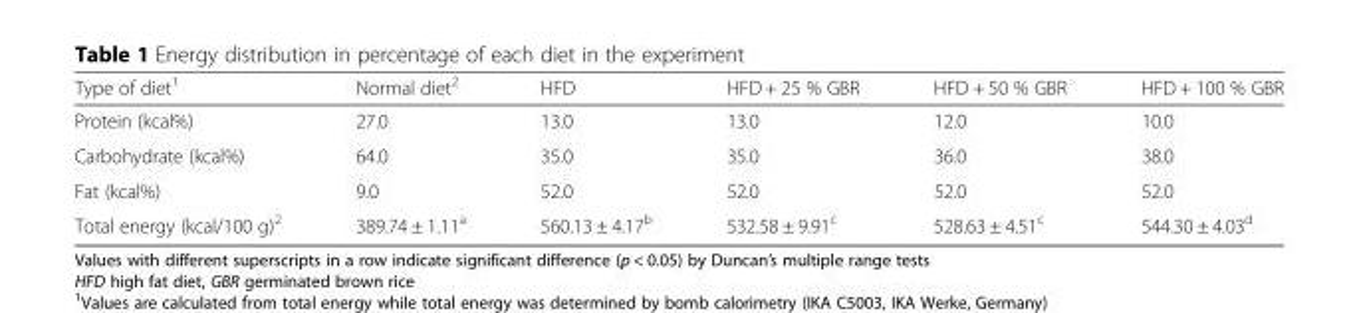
<table><thead><tr><td>Type of diet<sup>1</sup></td><td>Normal diet<sup>2</sup></td><td>HFD</td><td>HFD + 25 % GBR</td><td>HFD + 50 % GBR</td><td>HFD + 100 % GBR</td></tr></thead><tbody><tr><td>Protein (kcal%)</td><td>27.0</td><td>13.0</td><td>13.0</td><td>12.0</td><td>10.0</td></tr><tr><td>Carbohydrate (kcal%)</td><td>64.0</td><td>35.0</td><td>35.0</td><td>36.0</td><td>38.0</td></tr><tr><td>Fat (kcal%)</td><td>9.0</td><td>52.0</td><td>52.0</td><td>52.0</td><td>52.0</td></tr><tr><td>Total energy (kcal/100 g)<sup>2</sup></td><td>389.74 ± 1.11<sup>a</sup></td><td>560.13 ± 4.17<sup>b</sup></td><td>532.58 ± 9.91<sup>c</sup></td><td>528.63 ± 4.51<sup>c</sup></td><td>544.30 ± 4.03<sup>d</sup></td></tr></tbody></table>